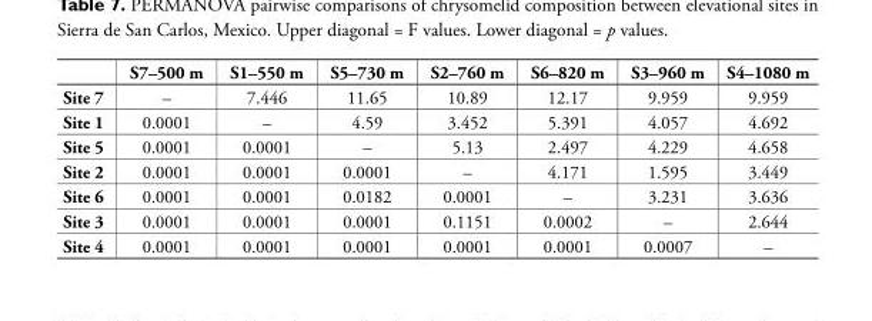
<table><thead><tr><td></td><td>S7–500 m</td><td>S1–550 m</td><td>S5–730 m</td><td>S2–760 m</td><td>S6–820 m</td><td>S3–960 m</td><td>S4–1080 m</td></tr></thead><tbody><tr><td>Site 7</td><td>–</td><td>7.446</td><td>11.65</td><td>10.89</td><td>12.17</td><td>9.959</td><td>9.959</td></tr><tr><td>Site 1</td><td>0.0001</td><td>–</td><td>4.59</td><td>3.452</td><td>5.391</td><td>4.057</td><td>4.692</td></tr><tr><td>Site 5</td><td>0.0001</td><td>0.0001</td><td>–</td><td>5.13</td><td>2.497</td><td>4.229</td><td>4.658</td></tr><tr><td>Site 2</td><td>0.0001</td><td>0.0001</td><td>0.0001</td><td>–</td><td>4.171</td><td>1.595</td><td>3.449</td></tr><tr><td>Site 6</td><td>0.0001</td><td>0.0001</td><td>0.0182</td><td>0.0001</td><td>–</td><td>3.231</td><td>3.636</td></tr><tr><td>Site 3</td><td>0.0001</td><td>0.0001</td><td>0.0001</td><td>0.1151</td><td>0.0002</td><td>–</td><td>2.644</td></tr><tr><td>Site 4</td><td>0.0001</td><td>0.0001</td><td>0.0001</td><td>0.0001</td><td>0.0001</td><td>0.0007</td><td>–</td></tr></tbody></table>